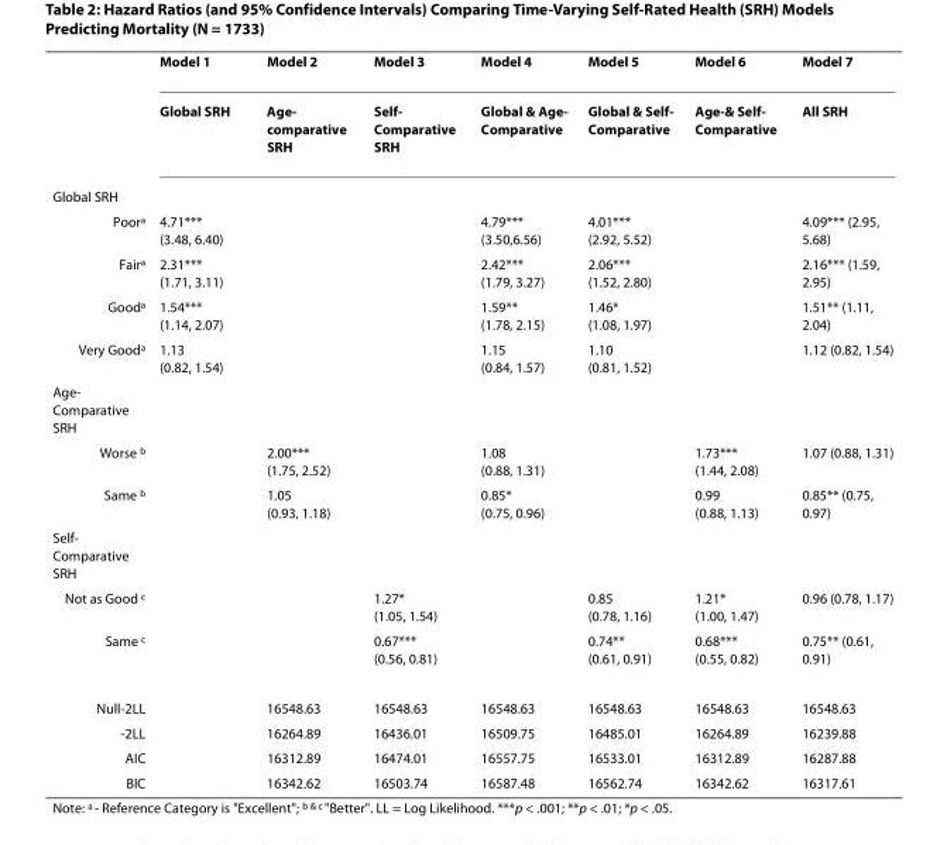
<table><thead><tr><td></td><td>Model 1</td><td>Model 2</td><td>Model 3</td><td>Model 4</td><td>Model 5</td><td>Model 6</td><td>Model 7</td></tr></thead><tbody><tr><td></td><td>Global SRH</td><td>Age- comparative SRH</td><td>Self- Comparative SRH</td><td>Global &amp; Age- Comparative</td><td>Global &amp; Self- Comparative</td><td>Age-&amp; Self- Comparative</td><td>All SRH</td></tr><tr><td colspan="8">Global SRH</td></tr><tr><td>Poor<sup>a</sup></td><td>4.71*** (3.48, 6.40)</td><td></td><td></td><td>4.79*** (3.50,6.56)</td><td>4.01*** (2.92, 5.52)</td><td></td><td>4.09*** (2.95, 5.68)</td></tr><tr><td>Fair<sup>a</sup></td><td>2.31*** (1.71, 3.11)</td><td></td><td></td><td>2.42*** (1.79, 3.27)</td><td>2.06*** (1.52, 2.80)</td><td></td><td>2.16*** (1.59, 2.95)</td></tr><tr><td>Good<sup>a</sup></td><td>1.54*** (1.14, 2.07)</td><td></td><td></td><td>1.59** (1.78, 2.15)</td><td>1.46* (1.08, 1.97)</td><td></td><td>1.51** (1.11, 2.04)</td></tr><tr><td>Very Good<sup>a</sup></td><td>1.13 (0.82, 1.54)</td><td></td><td></td><td>1.15 (0.84, 1.57)</td><td>1.10 (0.81, 1.52)</td><td></td><td>1.12 (0.82, 1.54)</td></tr><tr><td colspan="8">Age- Comparative SRH</td></tr><tr><td>Worse <sup>b</sup></td><td></td><td>2.00*** (1.75, 2.52)</td><td></td><td>1.08 (0.88, 1.31)</td><td></td><td>1.73*** (1.44, 2.08)</td><td>1.07 (0.88, 1.31)</td></tr><tr><td>Same <sup>b</sup></td><td></td><td>1.05 (0.93, 1.18)</td><td></td><td>0.85* (0.75, 0.96)</td><td></td><td>0.99 (0.88, 1.13)</td><td>0.85** (0.75, 0.97)</td></tr><tr><td colspan="8">Self- Comparative SRH</td></tr><tr><td>Not as Good <sup>c</sup></td><td></td><td></td><td>1.27* (1.05, 1.54)</td><td></td><td>0.85 (0.78, 1.16)</td><td>1.21* (1.00, 1.47)</td><td>0.96 (0.78, 1.17)</td></tr><tr><td>Same <sup>c</sup></td><td></td><td></td><td>0.67*** (0.56, 0.81)</td><td></td><td>0.74** (0.61, 0.91)</td><td>0.68*** (0.55, 0.82)</td><td>0.75** (0.61, 0.91)</td></tr><tr><td>Null-2LL</td><td></td><td>16548.63</td><td>16548.63</td><td>16548.63</td><td>16548.63</td><td>16548.63</td><td>16548.63</td></tr><tr><td>-2LL</td><td></td><td>16264.89</td><td>16436.01</td><td>16509.75</td><td>16485.01</td><td>16264.89</td><td>16239.88</td></tr><tr><td>AIC</td><td></td><td>16312.89</td><td>16474.01</td><td>16557.75</td><td>16533.01</td><td>16312.89</td><td>16287.88</td></tr><tr><td>BIC</td><td></td><td>16342.62</td><td>16503.74</td><td>16587.48</td><td>16562.74</td><td>16342.62</td><td>16317.61</td></tr></tbody></table>